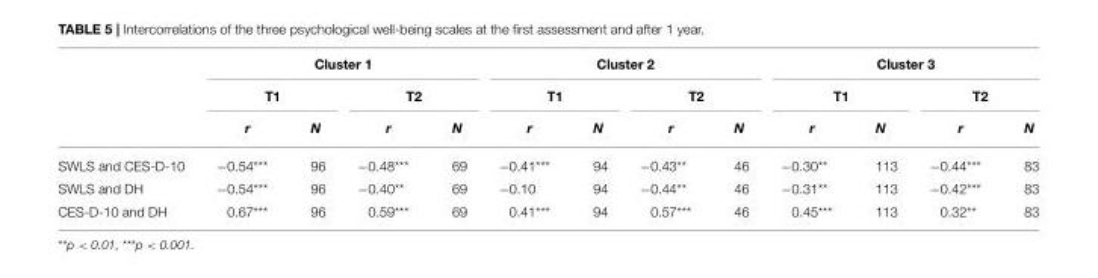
<table><thead><tr><td rowspan="3"></td><td colspan="4">Cluster 1</td><td colspan="4">Cluster 2</td><td colspan="4">Cluster 3</td></tr><tr><td colspan="2">T1</td><td colspan="2">T2</td><td colspan="2">T1</td><td colspan="2">T2</td><td colspan="2">T1</td><td colspan="2">T2</td></tr><tr><td>r</td><td>N</td><td>r</td><td>N</td><td>r</td><td>N</td><td>r</td><td>N</td><td>r</td><td>N</td><td>r</td><td>N</td></tr></thead><tbody><tr><td>SWLS and CES-D-10</td><td>−0.54***</td><td>96</td><td>−0.48***</td><td>69</td><td>−0.41***</td><td>94</td><td>−0.43**</td><td>46</td><td>−0.30**</td><td>113</td><td>−0.44***</td><td>83</td></tr><tr><td>SWLS and DH</td><td>−0.54***</td><td>96</td><td>−0.40**</td><td>69</td><td>−0.10</td><td>94</td><td>−0.44**</td><td>46</td><td>−0.31**</td><td>113</td><td>−0.42***</td><td>83</td></tr><tr><td>CES-D-10 and DH</td><td>0.67***</td><td>96</td><td>0.59***</td><td>69</td><td>0.41***</td><td>94</td><td>0.57***</td><td>46</td><td>0.45***</td><td>113</td><td>0.32**</td><td>83</td></tr></tbody></table>